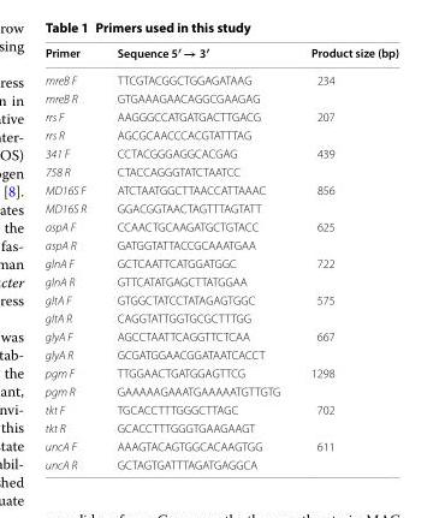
<table><thead><tr><td>Primer</td><td>Sequence 5′ → 3′</td><td>Product size (bp)</td></tr></thead><tbody><tr><td>mreB F</td><td>TTCGTACGGCTGGAGATAAG</td><td>234</td></tr><tr><td>mreB R</td><td>GTGAAAGAACAGGCGAAGAG</td><td></td></tr><tr><td>rrs F</td><td>AAGGGCCATGATGACTTGACG</td><td>207</td></tr><tr><td>rrs R</td><td>AGCGCAACCCACGTATTTAG</td><td></td></tr><tr><td>341 F</td><td>CCTACGGGAGGCACGAG</td><td>439</td></tr><tr><td>758 R</td><td>CTACCAGGGTATCTAATCC</td><td></td></tr><tr><td>MD16S F</td><td>ATCTAATGGCTTAACCATTAAAC</td><td>856</td></tr><tr><td>MD16S R</td><td>GGACGGTAACTAGTTTAGTATT</td><td></td></tr><tr><td>aspA F</td><td>CCAACTGCAAGATGCTGTACC</td><td>625</td></tr><tr><td>aspA R</td><td>GATGGTATTACCGCAAATGAA</td><td></td></tr><tr><td>glnA F</td><td>GCTCAATTCATGGATGGC</td><td>722</td></tr><tr><td>glnA R</td><td>GTTCATATGAGCTTATGGAA</td><td></td></tr><tr><td>gltA F</td><td>GTGGCTATCCTATAGAGTGGC</td><td>575</td></tr><tr><td>gltA R</td><td>CAGGTATTGGTGCGCTTTGG</td><td></td></tr><tr><td>glyA F</td><td>AGCCTAATTCAGGTTCTCAA</td><td>667</td></tr><tr><td>glyA R</td><td>GCGATGGAACGGATAATCACCT</td><td></td></tr><tr><td>pgm F</td><td>TTGGAACTGATGGAGTTCG</td><td>1298</td></tr><tr><td>pgm R</td><td>GAAAAAGAAATGAAAAATGTTGTG</td><td></td></tr><tr><td>tkt F</td><td>TGCACCTTTGGGCTTAGC</td><td>702</td></tr><tr><td>tkt R</td><td>GCACCTTTGGGTGAAGAAGT</td><td></td></tr><tr><td>uncA F</td><td>AAAGTACAGTGGCACAAGTGG</td><td>611</td></tr><tr><td>uncA R</td><td>GCTAGTGATTTAGATGAGGCA</td><td></td></tr></tbody></table>